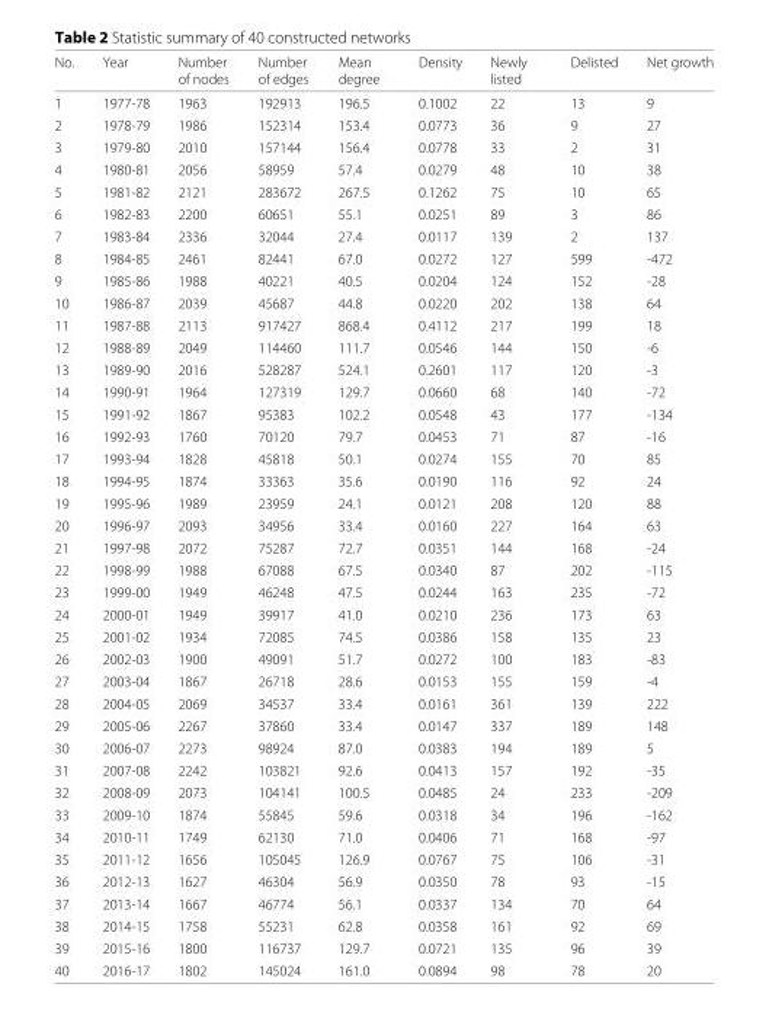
<table><thead><tr><td>No.</td><td>Year</td><td>Number of nodes</td><td>Number of edges</td><td>Mean degree</td><td>Density</td><td>Newly listed</td><td>Delisted</td><td>Net growth</td></tr></thead><tbody><tr><td>1</td><td>1977-78</td><td>1963</td><td>192913</td><td>196.5</td><td>0.1002</td><td>22</td><td>13</td><td>9</td></tr><tr><td>2</td><td>1978-79</td><td>1986</td><td>152314</td><td>153.4</td><td>0.0773</td><td>36</td><td>9</td><td>27</td></tr><tr><td>3</td><td>1979-80</td><td>2010</td><td>157144</td><td>156.4</td><td>0.0778</td><td>33</td><td>2</td><td>31</td></tr><tr><td>4</td><td>1980-81</td><td>2056</td><td>58959</td><td>57.4</td><td>0.0279</td><td>48</td><td>10</td><td>38</td></tr><tr><td>5</td><td>1981-82</td><td>2121</td><td>283672</td><td>267.5</td><td>0.1262</td><td>75</td><td>10</td><td>65</td></tr><tr><td>6</td><td>1982-83</td><td>2200</td><td>60651</td><td>55.1</td><td>0.0251</td><td>89</td><td>3</td><td>86</td></tr><tr><td>7</td><td>1983-84</td><td>2336</td><td>32044</td><td>27.4</td><td>0.0117</td><td>139</td><td>2</td><td>137</td></tr><tr><td>8</td><td>1984-85</td><td>2461</td><td>82441</td><td>67.0</td><td>0.0272</td><td>127</td><td>599</td><td>-472</td></tr><tr><td>9</td><td>1985-86</td><td>1988</td><td>40221</td><td>40.5</td><td>0.0204</td><td>124</td><td>152</td><td>-28</td></tr><tr><td>10</td><td>1986-87</td><td>2039</td><td>45687</td><td>44.8</td><td>0.0220</td><td>202</td><td>138</td><td>64</td></tr><tr><td>11</td><td>1987-88</td><td>2113</td><td>917427</td><td>868.4</td><td>0.4112</td><td>217</td><td>199</td><td>18</td></tr><tr><td>12</td><td>1988-89</td><td>2049</td><td>114460</td><td>111.7</td><td>0.0546</td><td>144</td><td>150</td><td>-6</td></tr><tr><td>13</td><td>1989-90</td><td>2016</td><td>528287</td><td>524.1</td><td>0.2601</td><td>117</td><td>120</td><td>-3</td></tr><tr><td>14</td><td>1990-91</td><td>1964</td><td>127319</td><td>129.7</td><td>0.0660</td><td>68</td><td>140</td><td>-72</td></tr><tr><td>15</td><td>1991-92</td><td>1867</td><td>95383</td><td>102.2</td><td>0.0548</td><td>43</td><td>177</td><td>-134</td></tr><tr><td>16</td><td>1992-93</td><td>1760</td><td>70120</td><td>79.7</td><td>0.0453</td><td>71</td><td>87</td><td>-16</td></tr><tr><td>17</td><td>1993-94</td><td>1828</td><td>45818</td><td>50.1</td><td>0.0274</td><td>155</td><td>70</td><td>85</td></tr><tr><td>18</td><td>1994-95</td><td>1874</td><td>33363</td><td>35.6</td><td>0.0190</td><td>116</td><td>92</td><td>24</td></tr><tr><td>19</td><td>1995-96</td><td>1989</td><td>23959</td><td>24.1</td><td>0.0121</td><td>208</td><td>120</td><td>88</td></tr><tr><td>20</td><td>1996-97</td><td>2093</td><td>34956</td><td>33.4</td><td>0.0160</td><td>227</td><td>164</td><td>63</td></tr><tr><td>21</td><td>1997-98</td><td>2072</td><td>75287</td><td>72.7</td><td>0.0351</td><td>144</td><td>168</td><td>-24</td></tr><tr><td>22</td><td>1998-99</td><td>1988</td><td>67088</td><td>67.5</td><td>0.0340</td><td>87</td><td>202</td><td>-115</td></tr><tr><td>23</td><td>1999-00</td><td>1949</td><td>46248</td><td>47.5</td><td>0.0244</td><td>163</td><td>235</td><td>-72</td></tr><tr><td>24</td><td>2000-01</td><td>1949</td><td>39917</td><td>41.0</td><td>0.0210</td><td>236</td><td>173</td><td>63</td></tr><tr><td>25</td><td>2001-02</td><td>1934</td><td>72085</td><td>74.5</td><td>0.0386</td><td>158</td><td>135</td><td>23</td></tr><tr><td>26</td><td>2002-03</td><td>1900</td><td>49091</td><td>51.7</td><td>0.0272</td><td>100</td><td>183</td><td>-83</td></tr><tr><td>27</td><td>2003-04</td><td>1867</td><td>26718</td><td>28.6</td><td>0.0153</td><td>155</td><td>159</td><td>-4</td></tr><tr><td>28</td><td>2004-05</td><td>2069</td><td>34537</td><td>33.4</td><td>0.0161</td><td>361</td><td>139</td><td>222</td></tr><tr><td>29</td><td>2005-06</td><td>2267</td><td>37860</td><td>33.4</td><td>0.0147</td><td>337</td><td>189</td><td>148</td></tr><tr><td>30</td><td>2006-07</td><td>2273</td><td>98924</td><td>87.0</td><td>0.0383</td><td>194</td><td>189</td><td>5</td></tr><tr><td>31</td><td>2007-08</td><td>2242</td><td>103821</td><td>92.6</td><td>0.0413</td><td>157</td><td>192</td><td>-35</td></tr><tr><td>32</td><td>2008-09</td><td>2073</td><td>104141</td><td>100.5</td><td>0.0485</td><td>24</td><td>233</td><td>-209</td></tr><tr><td>33</td><td>2009-10</td><td>1874</td><td>55845</td><td>59.6</td><td>0.0318</td><td>34</td><td>196</td><td>-162</td></tr><tr><td>34</td><td>2010-11</td><td>1749</td><td>62130</td><td>71.0</td><td>0.0406</td><td>71</td><td>168</td><td>-97</td></tr><tr><td>35</td><td>2011-12</td><td>1656</td><td>105045</td><td>126.9</td><td>0.0767</td><td>75</td><td>106</td><td>-31</td></tr><tr><td>36</td><td>2012-13</td><td>1627</td><td>46304</td><td>56.9</td><td>0.0350</td><td>78</td><td>93</td><td>-15</td></tr><tr><td>37</td><td>2013-14</td><td>1667</td><td>46774</td><td>56.1</td><td>0.0337</td><td>134</td><td>70</td><td>64</td></tr><tr><td>38</td><td>2014-15</td><td>1758</td><td>55231</td><td>62.8</td><td>0.0358</td><td>161</td><td>92</td><td>69</td></tr><tr><td>39</td><td>2015-16</td><td>1800</td><td>116737</td><td>129.7</td><td>0.0721</td><td>135</td><td>96</td><td>39</td></tr><tr><td>40</td><td>2016-17</td><td>1802</td><td>145024</td><td>161.0</td><td>0.0894</td><td>98</td><td>78</td><td>20</td></tr></tbody></table>